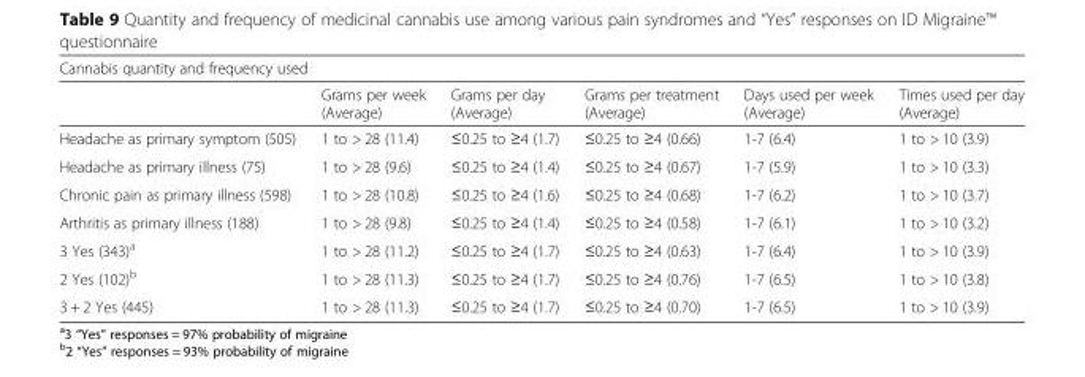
<table><thead><tr><td colspan="6">Cannabis quantity and frequency used</td></tr><tr><td></td><td>Grams per week (Average)</td><td>Grams per day (Average)</td><td>Grams per treatment (Average)</td><td>Days used per week (Average)</td><td>Times used per day (Average)</td></tr></thead><tbody><tr><td>Headache as primary symptom (505)</td><td>1 to &gt; 28 (11.4)</td><td>≤0.25 to ≥4 (1.7)</td><td>≤0.25 to ≥4 (0.66)</td><td>1-7 (6.4)</td><td>1 to &gt; 10 (3.9)</td></tr><tr><td>Headache as primary illness (75)</td><td>1 to &gt; 28 (9.6)</td><td>≤0.25 to ≥4 (1.4)</td><td>≤0.25 to ≥4 (0.67)</td><td>1-7 (5.9)</td><td>1 to &gt; 10 (3.3)</td></tr><tr><td>Chronic pain as primary illness (598)</td><td>1 to &gt; 28 (10.8)</td><td>≤0.25 to ≥4 (1.6)</td><td>≤0.25 to ≥4 (0.68)</td><td>1-7 (6.2)</td><td>1 to &gt; 10 (3.7)</td></tr><tr><td>Arthritis as primary illness (188)</td><td>1 to &gt; 28 (9.8)</td><td>≤0.25 to ≥4 (1.4)</td><td>≤0.25 to ≥4 (0.58)</td><td>1-7 (6.1)</td><td>1 to &gt; 10 (3.2)</td></tr><tr><td>3 Yes (343)<sup>a</sup></td><td>1 to &gt; 28 (11.2)</td><td>≤0.25 to ≥4 (1.7)</td><td>≤0.25 to ≥4 (0.63)</td><td>1-7 (6.4)</td><td>1 to &gt; 10 (3.9)</td></tr><tr><td>2 Yes (102)<sup>b</sup></td><td>1 to &gt; 28 (11.3)</td><td>≤0.25 to ≥4 (1.7)</td><td>≤0.25 to ≥4 (0.76)</td><td>1-7 (6.5)</td><td>1 to &gt; 10 (3.8)</td></tr><tr><td>3 + 2 Yes (445)</td><td>1 to &gt; 28 (11.3)</td><td>≤0.25 to ≥4 (1.7)</td><td>≤0.25 to ≥4 (0.70)</td><td>1-7 (6.5)</td><td>1 to &gt; 10 (3.9)</td></tr></tbody></table>